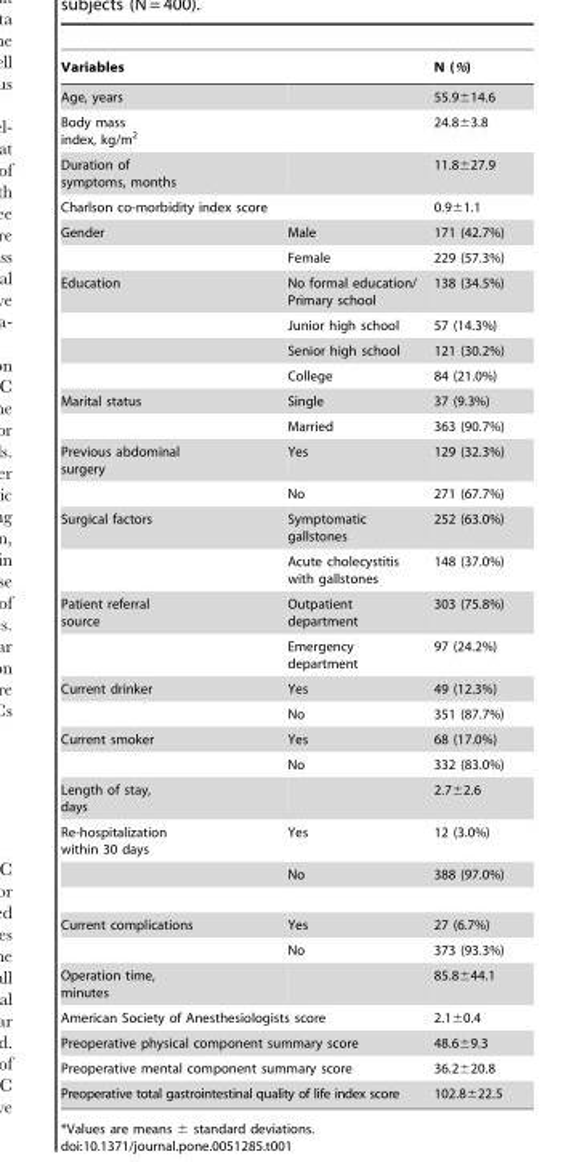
<table><thead><tr><td>Variables</td><td></td><td>N (%)</td></tr></thead><tbody><tr><td>Age, years</td><td></td><td>55.9±14.6</td></tr><tr><td>Body mass index, kg/m<sup>2</sup></td><td></td><td>24.8±3.8</td></tr><tr><td>Duration of symptoms, months</td><td></td><td>11.8±27.9</td></tr><tr><td colspan="2">Charlson co-morbidity index score</td><td>0.9±1.1</td></tr><tr><td rowspan="2">Gender</td><td>Male</td><td>171 (42.7%)</td></tr><tr><td>Female</td><td>229 (57.3%)</td></tr><tr><td rowspan="4">Education</td><td>No formal education/ Primary school</td><td>138 (34.5%)</td></tr><tr><td>Junior high school</td><td>57 (14.3%)</td></tr><tr><td>Senior high school</td><td>121 (30.2%)</td></tr><tr><td>College</td><td>84 (21.0%)</td></tr><tr><td rowspan="2">Marital status</td><td>Single</td><td>37 (9.3%)</td></tr><tr><td>Married</td><td>363 (90.7%)</td></tr><tr><td rowspan="2">Previous abdominal surgery</td><td>Yes</td><td>129 (32.3%)</td></tr><tr><td>No</td><td>271 (67.7%)</td></tr><tr><td rowspan="2">Surgical factors</td><td>Symptomatic gallstones</td><td>252 (63.0%)</td></tr><tr><td>Acute cholecystitis with gallstones</td><td>148 (37.0%)</td></tr><tr><td rowspan="2">Patient referral source</td><td>Outpatient department</td><td>303 (75.8%)</td></tr><tr><td>Emergency department</td><td>97 (24.2%)</td></tr><tr><td rowspan="2">Current drinker</td><td>Yes</td><td>49 (12.3%)</td></tr><tr><td>No</td><td>351 (87.7%)</td></tr><tr><td rowspan="2">Current smoker</td><td>Yes</td><td>68 (17.0%)</td></tr><tr><td>No</td><td>332 (83.0%)</td></tr><tr><td>Length of stay, days</td><td></td><td>2.7±2.6</td></tr><tr><td rowspan="2">Re-hospitalization within 30 days</td><td>Yes</td><td>12 (3.0%)</td></tr><tr><td>No</td><td>388 (97.0%)</td></tr><tr><td rowspan="2">Current complications</td><td>Yes</td><td>27 (6.7%)</td></tr><tr><td>No</td><td>373 (93.3%)</td></tr><tr><td>Operation time, minutes</td><td></td><td>85.8±44.1</td></tr><tr><td colspan="2">American Society of Anesthesiologists score</td><td>2.1±0.4</td></tr><tr><td colspan="2">Preoperative physical component summary score</td><td>48.6±9.3</td></tr><tr><td colspan="2">Preoperative mental component summary score</td><td>36.2±20.8</td></tr><tr><td colspan="2">Preoperative total gastrointestinal quality of life index score</td><td>102.8±22.5</td></tr></tbody></table>